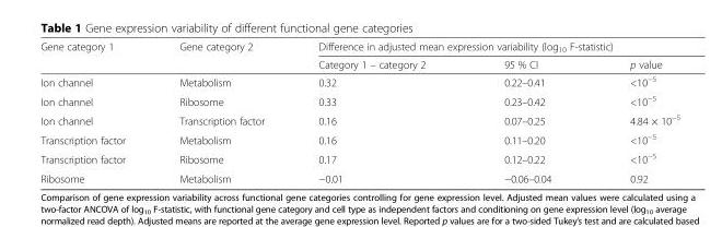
<table><thead><tr><td rowspan="2">Gene category 1</td><td rowspan="2">Gene category 2</td><td colspan="3">Difference in adjusted mean expression variability (log<sub>10</sub> F-statistic)</td></tr><tr><td>Category 1 – category 2</td><td>95 % CI</td><td>p value</td></tr></thead><tbody><tr><td>Ion channel</td><td>Metabolism</td><td>0.32</td><td>0.22–0.41</td><td>&lt;10<sup>−5</sup></td></tr><tr><td>Ion channel</td><td>Ribosome</td><td>0.33</td><td>0.23–0.42</td><td>&lt;10<sup>−5</sup></td></tr><tr><td>Ion channel</td><td>Transcription factor</td><td>0.16</td><td>0.07–0.25</td><td>4.84 × 10<sup>−5</sup></td></tr><tr><td>Transcription factor</td><td>Metabolism</td><td>0.16</td><td>0.11–0.20</td><td>&lt;10<sup>−5</sup></td></tr><tr><td>Transcription factor</td><td>Ribosome</td><td>0.17</td><td>0.12–0.22</td><td>&lt;10<sup>−5</sup></td></tr><tr><td>Ribosome</td><td>Metabolism</td><td>−0.01</td><td>−0.06–0.04</td><td>0.92</td></tr></tbody></table>